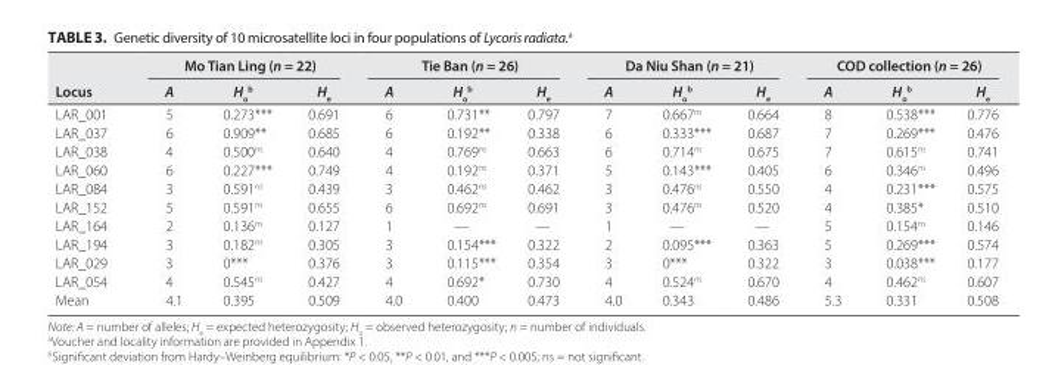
<table><thead><tr><td rowspan="2">Locus</td><td colspan="3">Mo Tian Ling (n = 22)</td><td colspan="3">Tie Ban (n = 26)</td><td colspan="3">Da Niu Shan (n = 21)</td><td colspan="3">COD collection (n = 26)</td></tr><tr><td>A</td><td>H<sub>o</sub> b</td><td>H<sub>e</sub></td><td>A</td><td>H<sub>o</sub> b</td><td>H<sub>e</sub></td><td>A</td><td>H<sub>o</sub> b</td><td>H<sub>e</sub></td><td>A</td><td>H<sub>o</sub> b</td><td>H<sub>e</sub></td></tr></thead><tbody><tr><td>LAR_001</td><td>5</td><td>0.273***</td><td>0.691</td><td>6</td><td>0.731**</td><td>0.797</td><td>7</td><td>0.667<sup>ns</sup></td><td>0.664</td><td>8</td><td>0.538***</td><td>0.776</td></tr><tr><td>LAR_037</td><td>6</td><td>0.909**</td><td>0.685</td><td>6</td><td>0.192**</td><td>0.338</td><td>6</td><td>0.333***</td><td>0.687</td><td>7</td><td>0.269***</td><td>0.476</td></tr><tr><td>LAR_038</td><td>4</td><td>0.500<sup>ns</sup></td><td>0.640</td><td>4</td><td>0.769<sup>ns</sup></td><td>0.663</td><td>6</td><td>0.714<sup>ns</sup></td><td>0.675</td><td>7</td><td>0.615<sup>ns</sup></td><td>0.741</td></tr><tr><td>LAR_060</td><td>6</td><td>0.227***</td><td>0.749</td><td>4</td><td>0.192<sup>ns</sup></td><td>0.371</td><td>5</td><td>0.143***</td><td>0.405</td><td>6</td><td>0.346<sup>ns</sup></td><td>0.496</td></tr><tr><td>LAR_084</td><td>3</td><td>0.591<sup>ns</sup></td><td>0.439</td><td>3</td><td>0.462<sup>ns</sup></td><td>0.462</td><td>3</td><td>0.476<sup>ns</sup></td><td>0.550</td><td>4</td><td>0.231***</td><td>0.575</td></tr><tr><td>LAR_152</td><td>5</td><td>0.591<sup>ns</sup></td><td>0.655</td><td>6</td><td>0.692<sup>ns</sup></td><td>0.691</td><td>3</td><td>0.476<sup>ns</sup></td><td>0.520</td><td>4</td><td>0.385*</td><td>0.510</td></tr><tr><td>LAR_164</td><td>2</td><td>0.136<sup>ns</sup></td><td>0.127</td><td>1</td><td>—</td><td>—</td><td>1</td><td>—</td><td>—</td><td>5</td><td>0.154<sup>ns</sup></td><td>0.146</td></tr><tr><td>LAR_194</td><td>3</td><td>0.182<sup>ns</sup></td><td>0.305</td><td>3</td><td>0.154***</td><td>0.322</td><td>2</td><td>0.095***</td><td>0.363</td><td>5</td><td>0.269***</td><td>0.574</td></tr><tr><td>LAR_029</td><td>3</td><td>0***</td><td>0.376</td><td>3</td><td>0.115***</td><td>0.354</td><td>3</td><td>0***</td><td>0.322</td><td>3</td><td>0.038***</td><td>0.177</td></tr><tr><td>LAR_054</td><td>4</td><td>0.545<sup>ns</sup></td><td>0.427</td><td>4</td><td>0.692*</td><td>0.730</td><td>4</td><td>0.524<sup>ns</sup></td><td>0.670</td><td>4</td><td>0.462<sup>ns</sup></td><td>0.607</td></tr><tr><td>Mean</td><td>4.1</td><td>0.395</td><td>0.509</td><td>4.0</td><td>0.400</td><td>0.473</td><td>4.0</td><td>0.343</td><td>0.486</td><td>5.3</td><td>0.331</td><td>0.508</td></tr></tbody></table>